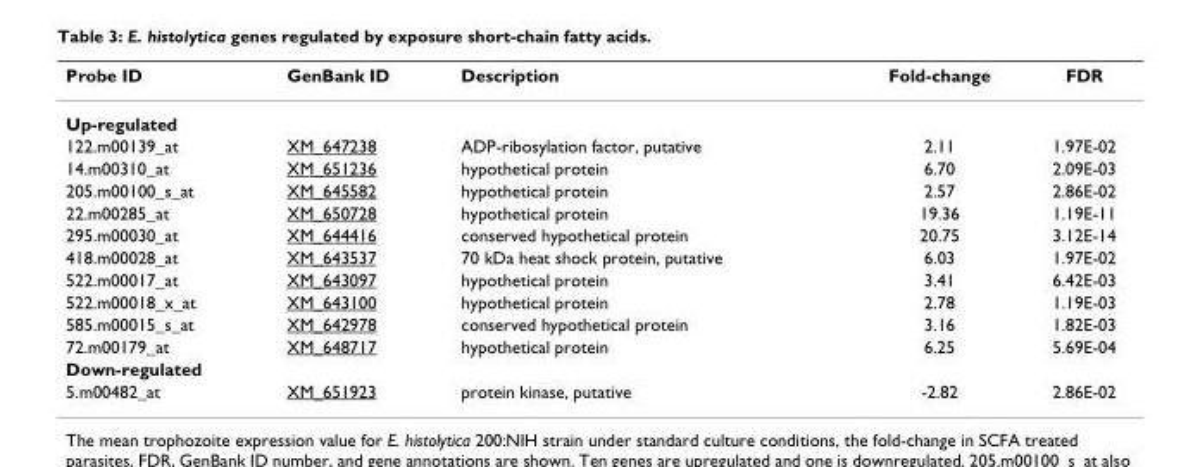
<table><thead><tr><td>Probe ID</td><td>GenBank ID</td><td>Description</td><td>Fold-change</td><td>FDR</td></tr></thead><tbody><tr><td colspan="5">Up-regulated</td></tr><tr><td>122.m00139_at</td><td>XM_647238</td><td>ADP-ribosylation factor, putative</td><td>2.11</td><td>1.97E-02</td></tr><tr><td>14.m00310_at</td><td>XM_651236</td><td>hypothetical protein</td><td>6.70</td><td>2.09E-03</td></tr><tr><td>205.m00100_s_at</td><td>XM_645582</td><td>hypothetical protein</td><td>2.57</td><td>2.86E-02</td></tr><tr><td>22.m00285_at</td><td>XM_650728</td><td>hypothetical protein</td><td>19.36</td><td>1.19E-11</td></tr><tr><td>295.m00030_at</td><td>XM_644416</td><td>conserved hypothetical protein</td><td>20.75</td><td>3.12E-14</td></tr><tr><td>418.m00028_at</td><td>XM_643537</td><td>70 kDa heat shock protein, putative</td><td>6.03</td><td>1.97E-02</td></tr><tr><td>522.m00017_at</td><td>XM_643097</td><td>hypothetical protein</td><td>3.41</td><td>6.42E-03</td></tr><tr><td>522.m00018_x_at</td><td>XM_643100</td><td>hypothetical protein</td><td>2.78</td><td>1.19E-03</td></tr><tr><td>585.m00015_s_at</td><td>XM_642978</td><td>conserved hypothetical protein</td><td>3.16</td><td>1.82E-03</td></tr><tr><td>72.m00179_at</td><td>XM_648717</td><td>hypothetical protein</td><td>6.25</td><td>5.69E-04</td></tr><tr><td colspan="5">Down-regulated</td></tr><tr><td>5.m00482_at</td><td>XM_651923</td><td>protein kinase, putative</td><td>-2.82</td><td>2.86E-02</td></tr></tbody></table>